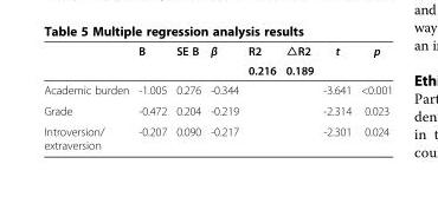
<table><thead><tr><td rowspan="2"></td><td rowspan="2">B</td><td rowspan="2">SE B</td><td rowspan="2">β</td><td rowspan="2">R2 0.216</td><td rowspan="2">△R2 0.189</td><td rowspan="2">t</td><td rowspan="2">p</td></tr><tr></tr></thead><tbody><tr><td>Academic burden</td><td>-1.005</td><td>0.276</td><td>-0.344</td><td></td><td></td><td>-3.641</td><td>&lt;0.001</td></tr><tr><td>Grade</td><td>-0.472</td><td>0.204</td><td>-0.219</td><td></td><td></td><td>-2.314</td><td>0.023</td></tr><tr><td>Introversion/ extraversion</td><td>-0.207</td><td>0.090</td><td>-0.217</td><td></td><td></td><td>-2.301</td><td>0.024</td></tr></tbody></table>